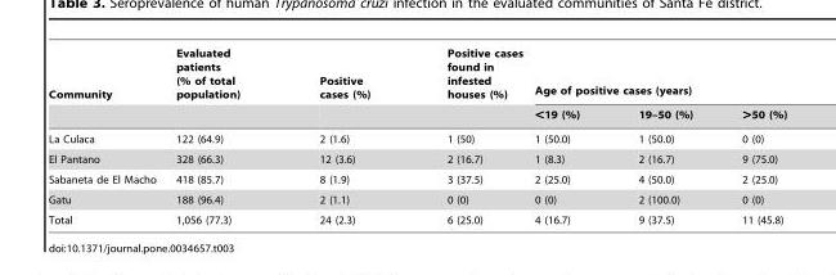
<table><thead><tr><td rowspan="2">Community</td><td rowspan="2">Evaluated patients (% of total population)</td><td rowspan="2">Positive cases (%)</td><td rowspan="2">Positive cases found in infested houses (%)</td><td colspan="3">Age of positive cases (years)</td></tr><tr><td>&lt;19 (%)</td><td>19–50 (%)</td><td>&gt;50 (%)</td></tr></thead><tbody><tr><td>La Culaca</td><td>122 (64.9)</td><td>2 (1.6)</td><td>1 (50)</td><td>1 (50.0)</td><td>1 (50.0)</td><td>0 (0)</td></tr><tr><td>El Pantano</td><td>328 (66.3)</td><td>12 (3.6)</td><td>2 (16.7)</td><td>1 (8.3)</td><td>2 (16.7)</td><td>9 (75.0)</td></tr><tr><td>Sabaneta de El Macho</td><td>418 (85.7)</td><td>8 (1.9)</td><td>3 (37.5)</td><td>2 (25.0)</td><td>4 (50.0)</td><td>2 (25.0)</td></tr><tr><td>Gatu</td><td>188 (96.4)</td><td>2 (1.1)</td><td>0 (0)</td><td>0 (0)</td><td>2 (100.0)</td><td>0 (0)</td></tr><tr><td>Total</td><td>1,056 (77.3)</td><td>24 (2.3)</td><td>6 (25.0)</td><td>4 (16.7)</td><td>9 (37.5)</td><td>11 (45.8)</td></tr></tbody></table>